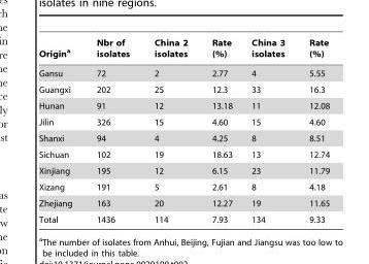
<table><thead><tr><td>Origin<sup>a</sup></td><td>Nbr of isolates</td><td>China 2 isolates</td><td>Rate (%)</td><td>China 3 isolates</td><td>Rate (%)</td></tr></thead><tbody><tr><td>Gansu</td><td>72</td><td>2</td><td>2.77</td><td>4</td><td>5.55</td></tr><tr><td>Guangxi</td><td>202</td><td>25</td><td>12.3</td><td>33</td><td>16.3</td></tr><tr><td>Hunan</td><td>91</td><td>12</td><td>13.18</td><td>11</td><td>12.08</td></tr><tr><td>Jilin</td><td>326</td><td>15</td><td>4.60</td><td>15</td><td>4.60</td></tr><tr><td>Shanxi</td><td>94</td><td>4</td><td>4.25</td><td>8</td><td>8.51</td></tr><tr><td>Sichuan</td><td>102</td><td>19</td><td>18.63</td><td>13</td><td>12.74</td></tr><tr><td>Xinjiang</td><td>195</td><td>12</td><td>6.15</td><td>23</td><td>11.79</td></tr><tr><td>Xizang</td><td>191</td><td>5</td><td>2.61</td><td>8</td><td>4.18</td></tr><tr><td>Zhejiang</td><td>163</td><td>20</td><td>12.27</td><td>19</td><td>11.65</td></tr><tr><td>Total</td><td>1436</td><td>114</td><td>7.93</td><td>134</td><td>9.33</td></tr></tbody></table>